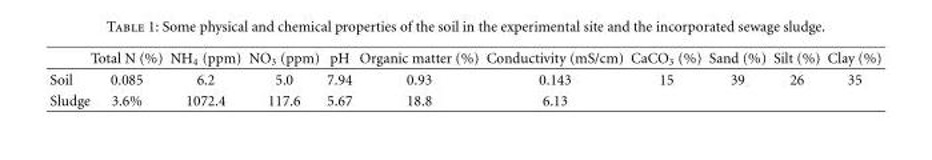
<table><thead><tr><td></td><td>Total N (%)</td><td>NH<sub>4</sub> (ppm)</td><td>NO<sub>3</sub> (ppm)</td><td>pH</td><td>Organic matter (%)</td><td>Conductivity (mS/cm)</td><td>CaCO<sub>3</sub> (%)</td><td>Sand (%)</td><td>Silt (%)</td><td>Clay (%)</td></tr></thead><tbody><tr><td>Soil</td><td>0.085</td><td>6.2</td><td>5.0</td><td>7.94</td><td>0.93</td><td>0.143</td><td>15</td><td>39</td><td>26</td><td>35</td></tr><tr><td>Sludge</td><td>3.6%</td><td>1072.4</td><td>117.6</td><td>5.67</td><td>18.8</td><td>6.13</td><td></td><td></td><td></td><td></td></tr></tbody></table>